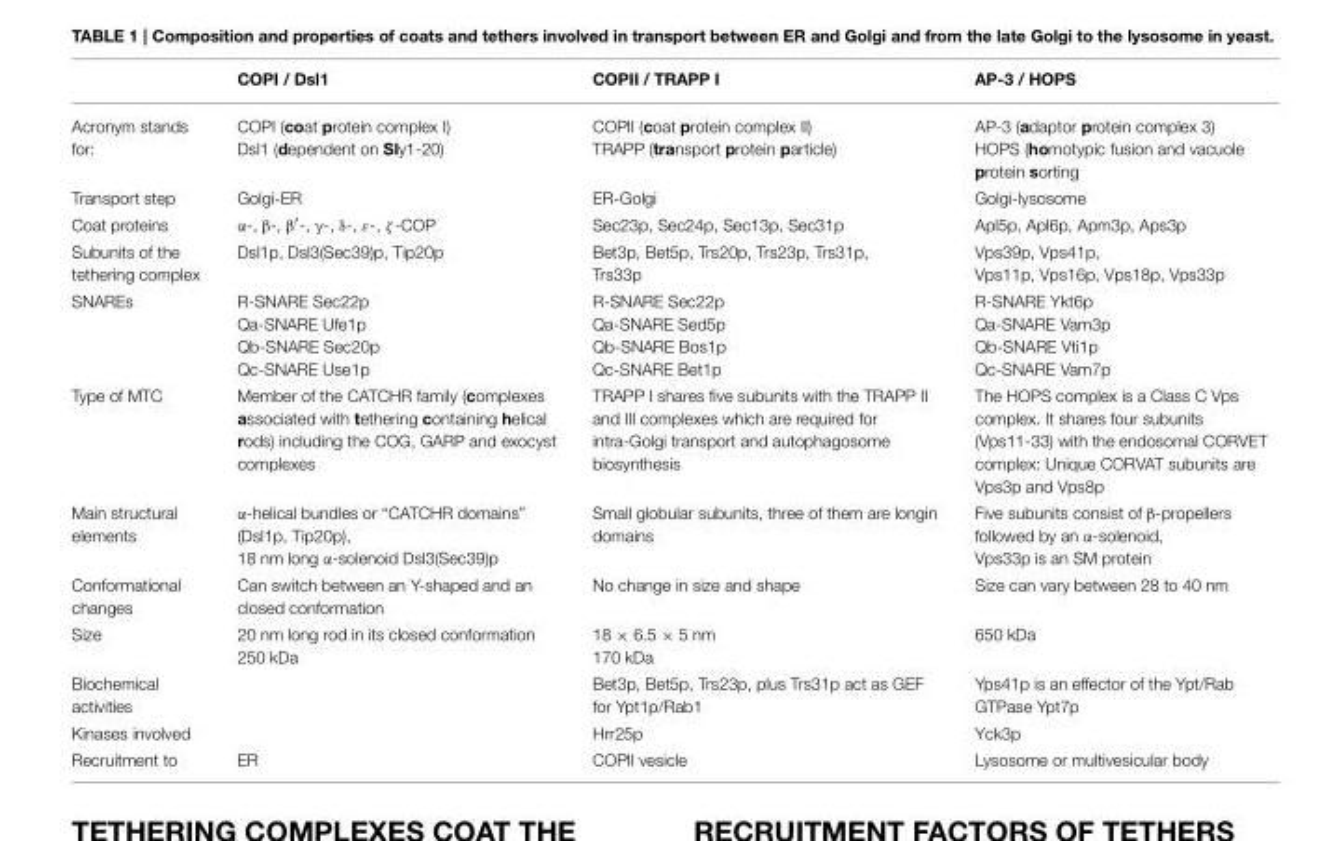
<table><thead><tr><td></td><td>COPI / Dsl1</td><td>COPII / TRAPP I</td><td>AP-3 / HOPS</td></tr></thead><tbody><tr><td>Acronym stands for:</td><td>COPI (coat protein complex I) Dsl1 (dependent on Sly1-20)</td><td>COPII (coat protein complex II) TRAPP (transport protein particle)</td><td>AP-3 (adaptor protein complex 3) HOPS (homotypic fusion and vacuole protein sorting</td></tr><tr><td>Transport step</td><td>Golgi-ER</td><td>ER-Golgi</td><td>Golgi-lysosome</td></tr><tr><td>Coat proteins</td><td>α-, β-, β′-, γ-, δ-, ε-, ζ-COP</td><td>Sec23p, Sec24p, Sec13p, Sec31p</td><td>Apl5p, Apl6p, Apm3p, Aps3p</td></tr><tr><td>Subunits of the tethering complex</td><td>Dsl1p, Dsl3(Sec39)p, Tip20p</td><td>Bet3p, Bet5p, Trs20p, Trs23p, Trs31p, Trs33p</td><td>Vps39p, Vps41p, Vps11p, Vps16p, Vps18p, Vps33p</td></tr><tr><td>SNAREs</td><td>R-SNARE Sec22p Qa-SNARE Ufe1p Qb-SNARE Sec20p Qc-SNARE Use1p</td><td>R-SNARE Sec22p Qa-SNARE Sed5p Qb-SNARE Bos1p Qc-SNARE Bet1p</td><td>R-SNARE Ykt6p Qa-SNARE Vam3p Qb-SNARE Vti1p Qc-SNARE Vam7p</td></tr><tr><td>Type of MTC</td><td>Member of the CATCHR family (complexes associated with tethering containing helical rods) including the COG, GARP and exocyst complexes</td><td>TRAPP I shares five subunits with the TRAPP II and III complexes which are required for intra-Golgi transport and autophagosome biosynthesis</td><td>The HOPS complex is a Class C Vps complex. It shares four subunits (Vps11-33) with the endosomal CORVET complex: Unique CORVAT subunits are Vps3p and Vps8p</td></tr><tr><td>Main structural elements</td><td>α-helical bundles or “CATCHR domains” (Dsl1p, Tip20p), 18 nm long α-solenoid Dsl3(Sec39)p</td><td>Small globular subunits, three of them are longin domains</td><td>Five subunits consist of β-propellers followed by an α-solenoid, Vps33p is an SM protein</td></tr><tr><td>Conformational changes</td><td>Can switch between an Y-shaped and an closed conformation</td><td>No change in size and shape</td><td>Size can vary between 28 to 40 nm</td></tr><tr><td>Size</td><td>20 nm long rod in its closed conformation 250 kDa</td><td>18 × 6.5 × 5 nm 170 kDa</td><td>650 kDa</td></tr><tr><td>Biochemical activities</td><td></td><td>Bet3p, Bet5p, Trs23p, plus Trs31p act as GEF for Ypt1p/Rab1</td><td>Yps41p is an effector of the Ypt/Rab GTPase Ypt7p</td></tr><tr><td>Kinases involved</td><td></td><td>Hrr25p</td><td>Yck3p</td></tr><tr><td>Recruitment to</td><td>ER</td><td>COPII vesicle</td><td>Lysosome or multivesicular body</td></tr></tbody></table>